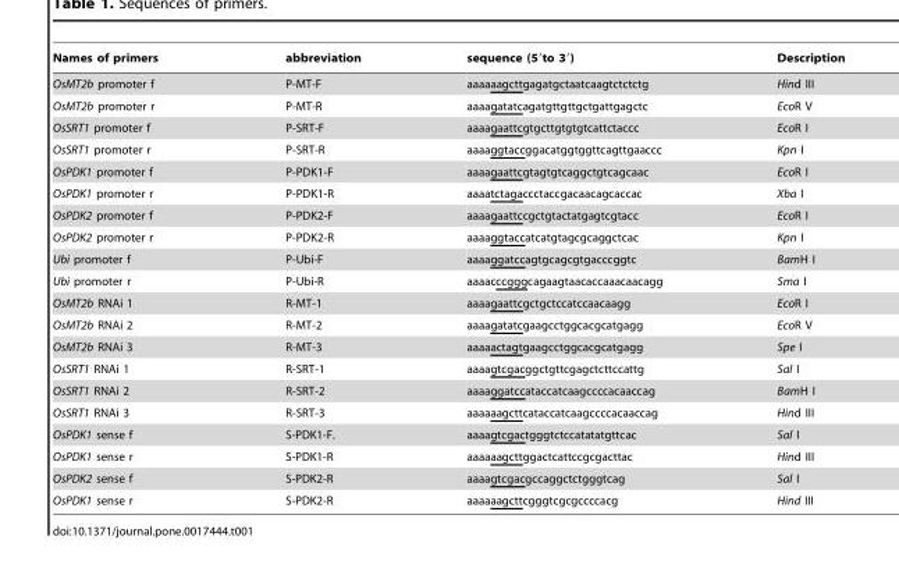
<table><thead><tr><td>Names of primers</td><td>abbreviation</td><td>sequence (5′to 3′)</td><td>Description</td></tr></thead><tbody><tr><td>OsMT2b promoter f</td><td>P-MT-F</td><td>aaaaaagcttgagatgctaatcaagtctctctg</td><td>Hind III</td></tr><tr><td>OsMT2b promoter r</td><td>P-MT-R</td><td>aaaagatatcagatgttgttgctgattgagctc</td><td>EcoR V</td></tr><tr><td>OsSRT1 promoter f</td><td>P-SRT-F</td><td>aaaagaattcgtgcttgtgtgtcattctaccc</td><td>EcoR I</td></tr><tr><td>OsSRT1 promoter r</td><td>P-SRT-R</td><td>aaaaggtaccggacatggtggttcagttgaaccc</td><td>Kpn I</td></tr><tr><td>OsPDK1 promoter f</td><td>P-PDK1-F</td><td>aaaagaattcgtagtgtcaggctgtcagcaac</td><td>EcoR I</td></tr><tr><td>OsPDK1 promoter r</td><td>P-PDK1-R</td><td>aaaatctagaccctaccgacaacagcaccac</td><td>Xba I</td></tr><tr><td>OsPDK2 promoter f</td><td>P-PDK2-F</td><td>aaaagaattccgctgtactatgagtcgtacc</td><td>EcoR I</td></tr><tr><td>OsPDK2 promoter r</td><td>P-PDK2-R</td><td>aaaaggtaccatcatgtagcgcaggctcac</td><td>Kpn I</td></tr><tr><td>Ubi promoter f</td><td>P-Ubi-F</td><td>aaaaggatccagtgcagcgtgacccggtc</td><td>BamH I</td></tr><tr><td>Ubi promoter r</td><td>P-Ubi-R</td><td>aaaacccgggcagaagtaacaccaaacaacagg</td><td>Sma I</td></tr><tr><td>OsMT2b RNAi 1</td><td>R-MT-1</td><td>aaaagaattcgctgctccatccaacaagg</td><td>EcoR I</td></tr><tr><td>OsMT2b RNAi 2</td><td>R-MT-2</td><td>aaaagatatcgaagcctggcacgcatgagg</td><td>EcoR V</td></tr><tr><td>OsMT2b RNAi 3</td><td>R-MT-3</td><td>aaaaactagtgaagcctggcacgcatgagg</td><td>Spe I</td></tr><tr><td>OsSRT1 RNAi 1</td><td>R-SRT-1</td><td>aaaagtcgacggctgttcgagctcttccattg</td><td>Sal I</td></tr><tr><td>OsSRT1 RNAi 2</td><td>R-SRT-2</td><td>aaaaggatccataccatcaagccccacaaccag</td><td>BamH I</td></tr><tr><td>OsSRT1 RNAi 3</td><td>R-SRT-3</td><td>aaaaaagcttcataccatcaagccccacaaccag</td><td>Hind III</td></tr><tr><td>OsPDK1 sense f</td><td>S-PDK1-F.</td><td>aaaagtcgactgggtctccatatatgttcac</td><td>Sal I</td></tr><tr><td>OsPDK1 sense r</td><td>S-PDK1-R</td><td>aaaaaagcttggactcattccgcgacttac</td><td>Hind III</td></tr><tr><td>OsPDK2 sense f</td><td>S-PDK2-R</td><td>aaaagtcgacgccaggctctgggtcag</td><td>Sal I</td></tr><tr><td>OsPDK1 sense r</td><td>S-PDK2-R</td><td>aaaaaagcttcgggtcgcgccccacg</td><td>Hind III</td></tr></tbody></table>